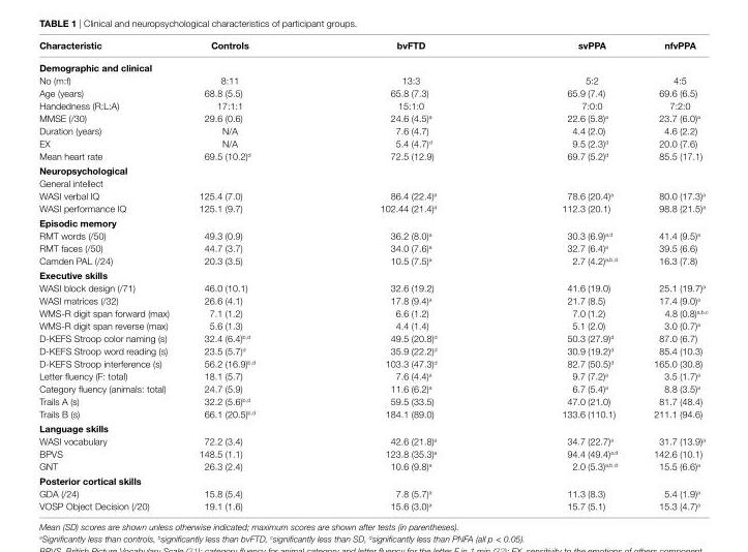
<table><thead><tr><td>characteristic</td><td>controls</td><td>bvFTD</td><td>svPPa</td><td>nfvPPa</td></tr></thead><tbody><tr><td colspan="5">Demographic and clinical</td></tr><tr><td>No (m:f)</td><td>8:11</td><td>13:3</td><td>5:2</td><td>4:5</td></tr><tr><td>Age (years)</td><td>68.8 (5.5)</td><td>65.8 (7.3)</td><td>65.9 (7.4)</td><td>69.6 (6.5)</td></tr><tr><td>Handedness (R:L:A)</td><td>17:1:1</td><td>15:1:0</td><td>7:0:0</td><td>7:2:0</td></tr><tr><td>MMSE (/30)</td><td>29.6 (0.6)</td><td>24.6 (4.5)<sup>a</sup></td><td>22.6 (5.8)<sup>a</sup></td><td>23.7 (6.0)<sup>a</sup></td></tr><tr><td>Duration (years)</td><td>N/A</td><td>7.6 (4.7)</td><td>4.4 (2.0)</td><td>4.6 (2.2)</td></tr><tr><td>EX</td><td>N/A</td><td>5.4 (4.7)<sup>d</sup></td><td>9.5 (2.3)<sup>d</sup></td><td>20.0 (7.6)</td></tr><tr><td>Mean heart rate</td><td>69.5 (10.2)<sup>d</sup></td><td>72.5 (12.9)</td><td>69.7 (5.2)<sup>d</sup></td><td>85.5 (17.1)</td></tr><tr><td colspan="5">neuropsychological</td></tr><tr><td colspan="5">General intellect</td></tr><tr><td>WASI verbal IQ</td><td>125.4 (7.0)</td><td>86.4 (22.4)<sup>a</sup></td><td>78.6 (20.4)<sup>a</sup></td><td>80.0 (17.3)<sup>a</sup></td></tr><tr><td>WASI performance IQ</td><td>125.1 (9.7)</td><td>102.44 (21.4)<sup>a</sup></td><td>112.3 (20.1)</td><td>98.8 (21.5)<sup>a</sup></td></tr><tr><td colspan="5">episodic memory</td></tr><tr><td>RMT words (/50)</td><td>49.3 (0.9)</td><td>36.2 (8.0)<sup>a</sup></td><td>30.3 (6.9)<sup>a,d</sup></td><td>41.4 (9.5)<sup>a</sup></td></tr><tr><td>RMT faces (/50)</td><td>44.7 (3.7)</td><td>34.0 (7.6)<sup>a</sup></td><td>32.7 (6.4)<sup>a</sup></td><td>39.5 (6.6)</td></tr><tr><td>Camden PAL (/24)</td><td>20.3 (3.5)</td><td>10.5 (7.5)<sup>a</sup></td><td>2.7 (4.2)<sup>a,b,d</sup></td><td>16.3 (7.8)</td></tr><tr><td colspan="5">executive skills</td></tr><tr><td>WASI block design (/71)</td><td>46.0 (10.1)</td><td>32.6 (19.2)</td><td>41.6 (19.0)</td><td>25.1 (19.7)<sup>a</sup></td></tr><tr><td>WASI matrices (/32)</td><td>26.6 (4.1)</td><td>17.8 (9.4)<sup>a</sup></td><td>21.7 (8.5)</td><td>17.4 (9.0)<sup>a</sup></td></tr><tr><td>WMS-R digit span forward (max)</td><td>7.1 (1.2)</td><td>6.6 (1.2)</td><td>7.0 (1.2)</td><td>4.8 (0.8)<sup>a,b,c</sup></td></tr><tr><td>WMS-R digit span reverse (max)</td><td>5.6 (1.3)</td><td>4.4 (1.4)</td><td>5.1 (2.0)</td><td>3.0 (0.7)<sup>a</sup></td></tr><tr><td>D-KEFS Stroop color naming (s)</td><td>32.4 (6.4)<sup>b,d</sup></td><td>49.5 (20.8)<sup>d</sup></td><td>50.3 (27.9)<sup>d</sup></td><td>87.0 (6.7)</td></tr><tr><td>D-KEFS Stroop word reading (s)</td><td>23.5 (5.7)<sup>d</sup></td><td>35.9 (22.2)<sup>d</sup></td><td>30.9 (19.2)<sup>d</sup></td><td>85.4 (10.3)</td></tr><tr><td>D-KEFS Stroop interference (s)</td><td>56.2 (16.9)<sup>b,d</sup></td><td>103.3 (47.3)<sup>d</sup></td><td>82.7 (50.5)<sup>d</sup></td><td>165.0 (30.8)</td></tr><tr><td>Letter fluency (F: total)</td><td>18.1 (5.7)</td><td>7.6 (4.4)<sup>a</sup></td><td>9.7 (7.2)<sup>a</sup></td><td>3.5 (1.7)<sup>a</sup></td></tr><tr><td>Category fluency (animals: total)</td><td>24.7 (5.9)</td><td>11.6 (6.2)<sup>a</sup></td><td>6.7 (5.4)<sup>a</sup></td><td>8.8 (3.5)<sup>a</sup></td></tr><tr><td>Trails A (s)</td><td>32.2 (5.6)<sup>b,d</sup></td><td>59.5 (33.5)</td><td>47.0 (21.0)</td><td>81.7 (48.4)</td></tr><tr><td>Trails B (s)</td><td>66.1 (20.5)<sup>b,d</sup></td><td>184.1 (89.0)</td><td>133.6 (110.1)</td><td>211.1 (94.6)</td></tr><tr><td colspan="5">language skills</td></tr><tr><td>WASI vocabulary</td><td>72.2 (3.4)</td><td>42.6 (21.8)<sup>a</sup></td><td>34.7 (22.7)<sup>a</sup></td><td>31.7 (13.9)<sup>a</sup></td></tr><tr><td>BPVS</td><td>148.5 (1.1)</td><td>123.8 (35.3)<sup>a</sup></td><td>94.4 (49.4)<sup>a,d</sup></td><td>142.6 (10.1)</td></tr><tr><td>GNT</td><td>26.3 (2.4)</td><td>10.6 (9.8)<sup>a</sup></td><td>2.0 (5.3)<sup>a,b,d</sup></td><td>15.5 (6.6)<sup>a</sup></td></tr><tr><td colspan="5">Posterior cortical skills</td></tr><tr><td>GDA (/24)</td><td>15.8 (5.4)</td><td>7.8 (5.7)<sup>a</sup></td><td>11.3 (8.3)</td><td>5.4 (1.9)<sup>a</sup></td></tr><tr><td>VOSP Object Decision (/20)</td><td>19.1 (1.6)</td><td>15.6 (3.0)<sup>a</sup></td><td>15.7 (5.1)</td><td>15.3 (4.7)<sup>a</sup></td></tr></tbody></table>